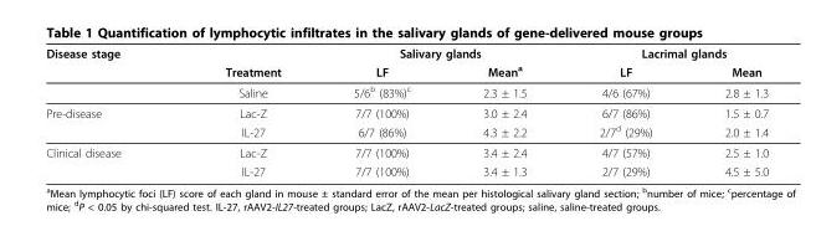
<table><thead><tr><td rowspan="2">Disease stage</td><td rowspan="2">Treatment</td><td colspan="2">Salivary glands</td><td colspan="2">Lacrimal glands</td></tr><tr><td>LF</td><td>Mean<sup>a</sup></td><td>LF</td><td>Mean</td></tr></thead><tbody><tr><td></td><td>Saline</td><td>5/6<sup>b</sup> (83%)<sup>c</sup></td><td>2.3 ± 1.5</td><td>4/6 (67%)</td><td>2.8 ± 1.3</td></tr><tr><td rowspan="2">Pre-disease</td><td>Lac-Z</td><td>7/7 (100%)</td><td>3.0 ± 2.4</td><td>6/7 (86%)</td><td>1.5 ± 0.7</td></tr><tr><td>IL-27</td><td>6/7 (86%)</td><td>4.3 ± 2.2</td><td>2/7<sup>d</sup> (29%)</td><td>2.0 ± 1.4</td></tr><tr><td rowspan="2">Clinical disease</td><td>Lac-Z</td><td>7/7 (100%)</td><td>3.4 ± 2.4</td><td>4/7 (57%)</td><td>2.5 ± 1.0</td></tr><tr><td>IL-27</td><td>7/7 (100%)</td><td>3.4 ± 1.3</td><td>2/7 (29%)</td><td>4.5 ± 5.0</td></tr></tbody></table>